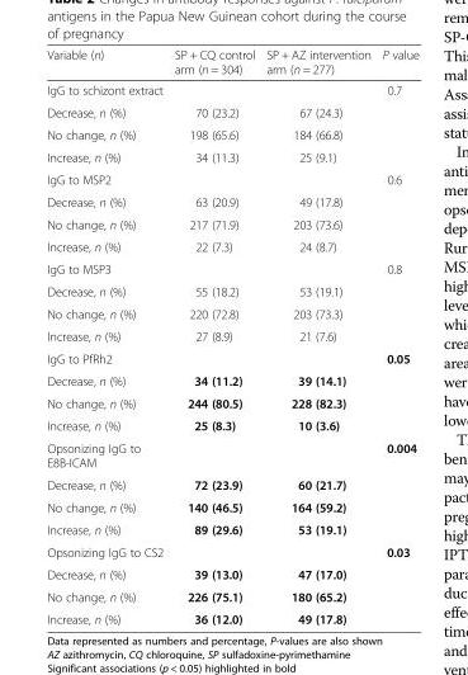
<table><thead><tr><td>Variable (n)</td><td>SP + CQ control arm (n = 304)</td><td>SP + AZ intervention arm (n = 277)</td><td>P value</td></tr></thead><tbody><tr><td>IgG to schizont extract</td><td></td><td></td><td>0.7</td></tr><tr><td>Decrease, n (%)</td><td>70 (23.2)</td><td>67 (24.3)</td><td></td></tr><tr><td>No change, n (%)</td><td>198 (65.6)</td><td>184 (66.8)</td><td></td></tr><tr><td>Increase, n (%)</td><td>34 (11.3)</td><td>25 (9.1)</td><td></td></tr><tr><td>IgG to MSP2</td><td></td><td></td><td>0.6</td></tr><tr><td>Decrease, n (%)</td><td>63 (20.9)</td><td>49 (17.8)</td><td></td></tr><tr><td>No change, n (%)</td><td>217 (71.9)</td><td>203 (73.6)</td><td></td></tr><tr><td>Increase, n (%)</td><td>22 (7.3)</td><td>24 (8.7)</td><td></td></tr><tr><td>IgG to MSP3</td><td></td><td></td><td>0.8</td></tr><tr><td>Decrease, n (%)</td><td>55 (18.2)</td><td>53 (19.1)</td><td></td></tr><tr><td>No change, n (%)</td><td>220 (72.8)</td><td>203 (73.3)</td><td></td></tr><tr><td>Increase, n (%)</td><td>27 (8.9)</td><td>21 (7.6)</td><td></td></tr><tr><td>IgG to PfRh2</td><td></td><td></td><td>0.05</td></tr><tr><td>Decrease, n (%)</td><td>34 (11.2)</td><td>39 (14.1)</td><td></td></tr><tr><td>No change, n (%)</td><td>244 (80.5)</td><td>228 (82.3)</td><td></td></tr><tr><td>Increase, n (%)</td><td>25 (8.3)</td><td>10 (3.6)</td><td></td></tr><tr><td>Opsonizing IgG to E8B-ICAM</td><td></td><td></td><td>0.004</td></tr><tr><td>Decrease, n (%)</td><td>72 (23.9)</td><td>60 (21.7)</td><td></td></tr><tr><td>No change, n (%)</td><td>140 (46.5)</td><td>164 (59.2)</td><td></td></tr><tr><td>Increase, n (%)</td><td>89 (29.6)</td><td>53 (19.1)</td><td></td></tr><tr><td>Opsonizing IgG to CS2</td><td></td><td></td><td>0.03</td></tr><tr><td>Decrease, n (%)</td><td>39 (13.0)</td><td>47 (17.0)</td><td></td></tr><tr><td>No change, n (%)</td><td>226 (75.1)</td><td>180 (65.2)</td><td></td></tr><tr><td>Increase, n (%)</td><td>36 (12.0)</td><td>49 (17.8)</td><td></td></tr></tbody></table>